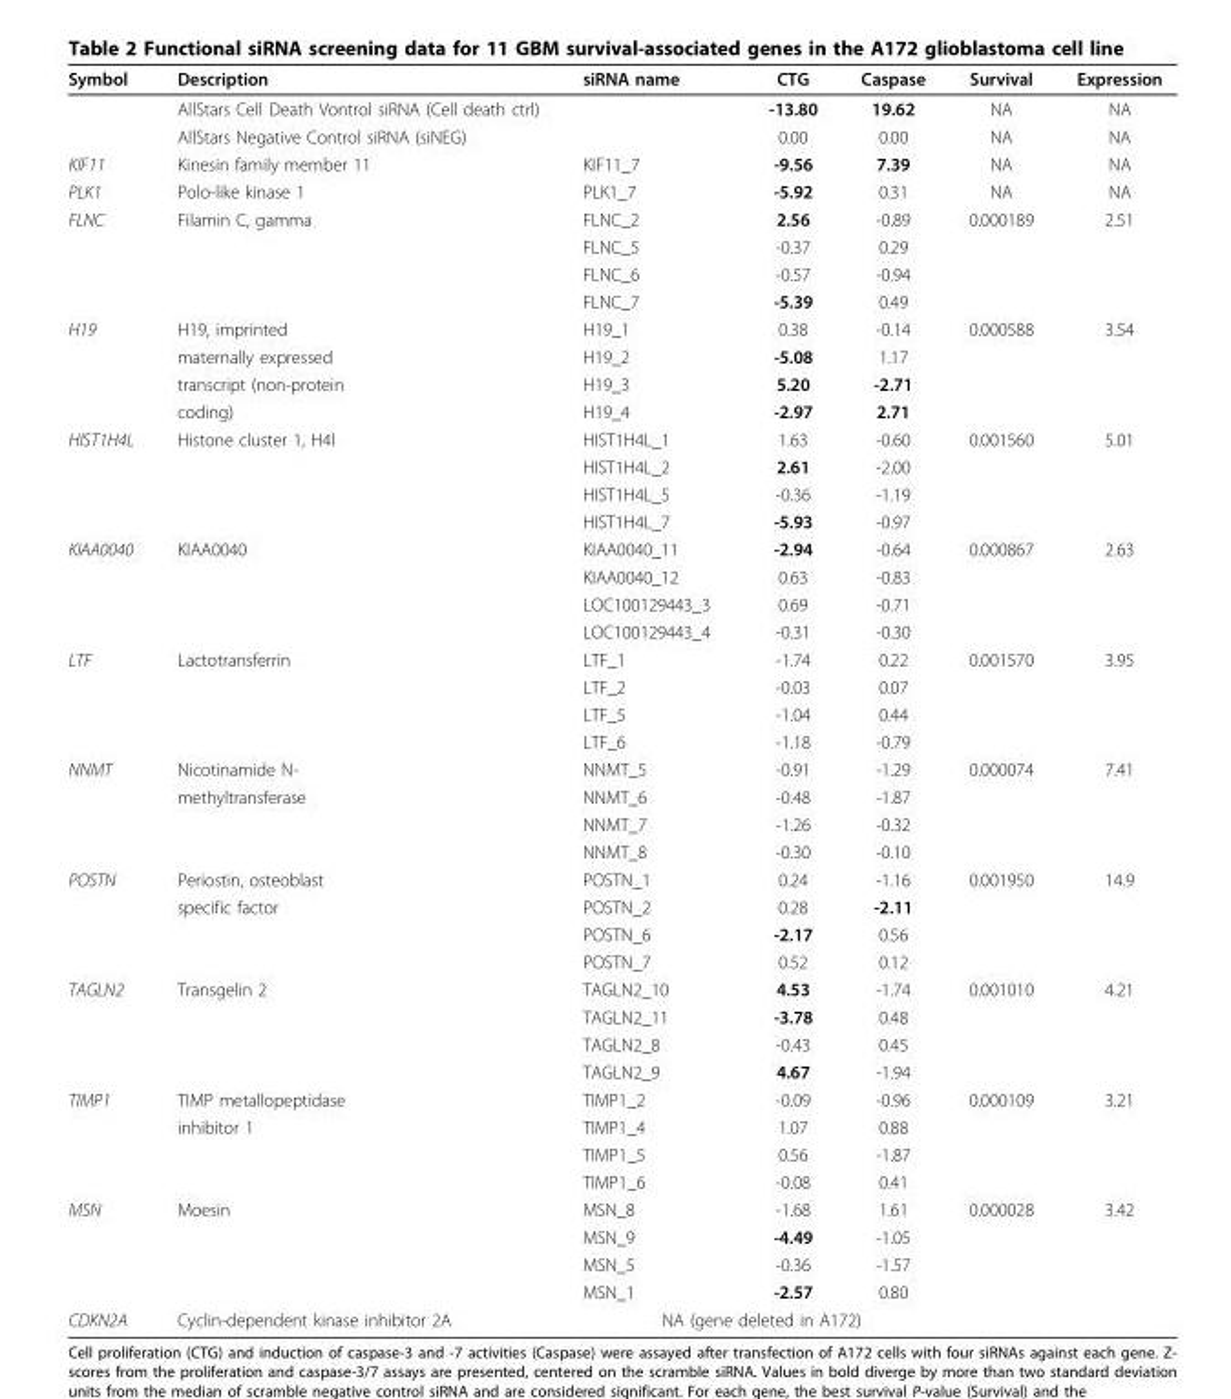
<table><thead><tr><td>Symbol</td><td>Description</td><td>siRNA name</td><td>CTG</td><td>Caspase</td><td>Survival</td><td>Expression</td></tr></thead><tbody><tr><td></td><td>AllStars Cell Death Vontrol siRNA (Cell death ctrl)</td><td></td><td>-13.80</td><td>19.62</td><td>NA</td><td>NA</td></tr><tr><td></td><td>AllStars Negative Control siRNA (siNEG)</td><td></td><td>0.00</td><td>0.00</td><td>NA</td><td>NA</td></tr><tr><td>KIF11</td><td>Kinesin family member 11</td><td>KIF11_7</td><td>-9.56</td><td>7.39</td><td>NA</td><td>NA</td></tr><tr><td>PLK1</td><td>Polo-like kinase 1</td><td>PLK1_7</td><td>-5.92</td><td>0.31</td><td>NA</td><td>NA</td></tr><tr><td rowspan="4">FLNC</td><td>Filamin C, gamma</td><td>FLNC_2</td><td>2.56</td><td>-0.89</td><td>0.000189</td><td>2.51</td></tr><tr><td></td><td>FLNC_5</td><td>-0.37</td><td>0.29</td><td></td><td></td></tr><tr><td></td><td>FLNC_6</td><td>-0.57</td><td>-0.94</td><td></td><td></td></tr><tr><td></td><td>FLNC_7</td><td>-5.39</td><td>0.49</td><td></td><td></td></tr><tr><td rowspan="4">H19</td><td>H19, imprinted</td><td>H19_1</td><td>0.38</td><td>-0.14</td><td>0.000588</td><td>3.54</td></tr><tr><td>maternally expressed</td><td>H19_2</td><td>-5.08</td><td>1.17</td><td></td><td></td></tr><tr><td>transcript (non-protein</td><td>H19_3</td><td>5.20</td><td>-2.71</td><td></td><td></td></tr><tr><td>coding)</td><td>H19_4</td><td>-2.97</td><td>2.71</td><td></td><td></td></tr><tr><td rowspan="4">HIST1H4L</td><td>Histone cluster 1, H4l</td><td>HIST1H4L_1</td><td>1.63</td><td>-0.60</td><td>0.001560</td><td>5.01</td></tr><tr><td></td><td>HIST1H4L_2</td><td>2.61</td><td>-2.00</td><td></td><td></td></tr><tr><td></td><td>HIST1H4L_5</td><td>-0.36</td><td>-1.19</td><td></td><td></td></tr><tr><td></td><td>HIST1H4L_7</td><td>-5.93</td><td>-0.97</td><td></td><td></td></tr><tr><td rowspan="4">KIAA0040</td><td>KIAA0040</td><td>KIAA0040_11</td><td>-2.94</td><td>-0.64</td><td>0.000867</td><td>2.63</td></tr><tr><td></td><td>KIAA0040_12</td><td>0.63</td><td>-0.83</td><td></td><td></td></tr><tr><td></td><td>LOC100129443_3</td><td>0.69</td><td>-0.71</td><td></td><td></td></tr><tr><td></td><td>LOC100129443_4</td><td>-0.31</td><td>-0.30</td><td></td><td></td></tr><tr><td rowspan="4">LTF</td><td>Lactotransferrin</td><td>LTF_1</td><td>-1.74</td><td>0.22</td><td>0.001570</td><td>3.95</td></tr><tr><td></td><td>LTF_2</td><td>-0.03</td><td>0.07</td><td></td><td></td></tr><tr><td></td><td>LTF_5</td><td>-1.04</td><td>0.44</td><td></td><td></td></tr><tr><td></td><td>LTF_6</td><td>-1.18</td><td>-0.79</td><td></td><td></td></tr><tr><td rowspan="4">NNMT</td><td>Nicotinamide N-</td><td>NNMT_5</td><td>-0.91</td><td>-1.29</td><td>0.000074</td><td>7.41</td></tr><tr><td>methyltransferase</td><td>NNMT_6</td><td>-0.48</td><td>-1.87</td><td></td><td></td></tr><tr><td></td><td>NNMT_7</td><td>-1.26</td><td>-0.32</td><td></td><td></td></tr><tr><td></td><td>NNMT_8</td><td>-0.30</td><td>-0.10</td><td></td><td></td></tr><tr><td rowspan="4">POSTN</td><td>Periostin, osteoblast</td><td>POSTN_1</td><td>0.24</td><td>-1.16</td><td>0.001950</td><td>14.9</td></tr><tr><td>specific factor</td><td>POSTN_2</td><td>0.28</td><td>-2.11</td><td></td><td></td></tr><tr><td></td><td>POSTN_6</td><td>-2.17</td><td>0.56</td><td></td><td></td></tr><tr><td></td><td>POSTN_7</td><td>0.52</td><td>0.12</td><td></td><td></td></tr><tr><td rowspan="4">TAGLN2</td><td>Transgelin 2</td><td>TAGLN2_10</td><td>4.53</td><td>-1.74</td><td>0.001010</td><td>4.21</td></tr><tr><td></td><td>TAGLN2_11</td><td>-3.78</td><td>0.48</td><td></td><td></td></tr><tr><td></td><td>TAGLN2_8</td><td>-0.43</td><td>0.45</td><td></td><td></td></tr><tr><td></td><td>TAGLN2_9</td><td>4.67</td><td>-1.94</td><td></td><td></td></tr><tr><td rowspan="4">TIMP1</td><td>TIMP metallopeptidase</td><td>TIMP1_2</td><td>-0.09</td><td>-0.96</td><td>0.000109</td><td>3.21</td></tr><tr><td>inhibitor 1</td><td>TIMP1_4</td><td>1.07</td><td>0.88</td><td></td><td></td></tr><tr><td></td><td>TIMP1_5</td><td>0.56</td><td>-1.87</td><td></td><td></td></tr><tr><td></td><td>TIMP1_6</td><td>-0.08</td><td>0.41</td><td></td><td></td></tr><tr><td rowspan="4">MSN</td><td>Moesin</td><td>MSN_8</td><td>-1.68</td><td>1.61</td><td>0.000028</td><td>3.42</td></tr><tr><td></td><td>MSN_9</td><td>-4.49</td><td>-1.05</td><td></td><td></td></tr><tr><td></td><td>MSN_5</td><td>-0.36</td><td>-1.57</td><td></td><td></td></tr><tr><td></td><td>MSN_1</td><td>-2.57</td><td>0.80</td><td></td><td></td></tr><tr><td>CDKN2A</td><td>Cyclin-dependent kinase inhibitor 2A</td><td colspan="3">NA (gene deleted in A172)</td><td></td><td></td></tr></tbody></table>